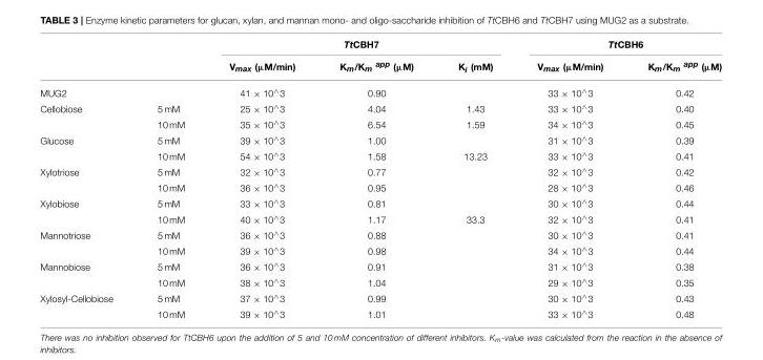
<table><thead><tr><td rowspan="2"></td><td rowspan="2"></td><td colspan="3">TtCBH7</td><td colspan="2">TtCBH6</td></tr><tr><td>Vmax (µM/min)</td><td>Km/Km app (µM)</td><td>Ki (mM)</td><td>Vmax (µM/min)</td><td>Km/Km app (µM)</td></tr></thead><tbody><tr><td>MUG2</td><td></td><td>41 × 10<sup>∧</sup>3</td><td>0.90</td><td></td><td>33 × 10<sup>∧</sup>3</td><td>0.42</td></tr><tr><td rowspan="2">Cellobiose</td><td>5 mM</td><td>25 × 10<sup>∧</sup>3</td><td>4.04</td><td>1.43</td><td>33 × 10<sup>∧</sup>3</td><td>0.40</td></tr><tr><td>10 mM</td><td>35 × 10<sup>∧</sup>3</td><td>6.54</td><td>1.59</td><td>34 × 10<sup>∧</sup>3</td><td>0.45</td></tr><tr><td rowspan="2">Glucose</td><td>5 mM</td><td>39 × 10<sup>∧</sup>3</td><td>1.00</td><td></td><td>31 × 10<sup>∧</sup>3</td><td>0.39</td></tr><tr><td>10 mM</td><td>54 × 10<sup>∧</sup>3</td><td>1.58</td><td>13.23</td><td>33 × 10<sup>∧</sup>3</td><td>0.41</td></tr><tr><td rowspan="2">Xylotriose</td><td>5 mM</td><td>32 × 10<sup>∧</sup>3</td><td>0.77</td><td></td><td>32 × 10<sup>∧</sup>3</td><td>0.42</td></tr><tr><td>10 mM</td><td>36 × 10<sup>∧</sup>3</td><td>0.95</td><td></td><td>28 × 10<sup>∧</sup>3</td><td>0.46</td></tr><tr><td rowspan="2">Xylobiose</td><td>5 mM</td><td>33 × 10<sup>∧</sup>3</td><td>0.81</td><td></td><td>30 × 10<sup>∧</sup>3</td><td>0.44</td></tr><tr><td>10 mM</td><td>40 × 10<sup>∧</sup>3</td><td>1.17</td><td>33.3</td><td>32 × 10<sup>∧</sup>3</td><td>0.41</td></tr><tr><td rowspan="2">Mannotriose</td><td>5 mM</td><td>36 × 10<sup>∧</sup>3</td><td>0.88</td><td></td><td>30 × 10<sup>∧</sup>3</td><td>0.41</td></tr><tr><td>10 mM</td><td>39 × 10<sup>∧</sup>3</td><td>0.98</td><td></td><td>34 × 10<sup>∧</sup>3</td><td>0.44</td></tr><tr><td rowspan="2">Mannobiose</td><td>5 mM</td><td>36 × 10<sup>∧</sup>3</td><td>0.91</td><td></td><td>31 × 10<sup>∧</sup>3</td><td>0.38</td></tr><tr><td>10 mM</td><td>38 × 10<sup>∧</sup>3</td><td>1.04</td><td></td><td>29 × 10<sup>∧</sup>3</td><td>0.35</td></tr><tr><td rowspan="2">Xylosyl-Cellobiose</td><td>5 mM</td><td>37 × 10<sup>∧</sup>3</td><td>0.99</td><td></td><td>30 × 10<sup>∧</sup>3</td><td>0.43</td></tr><tr><td>10 mM</td><td>39 × 10<sup>∧</sup>3</td><td>1.01</td><td></td><td>33 × 10<sup>∧</sup>3</td><td>0.48</td></tr></tbody></table>